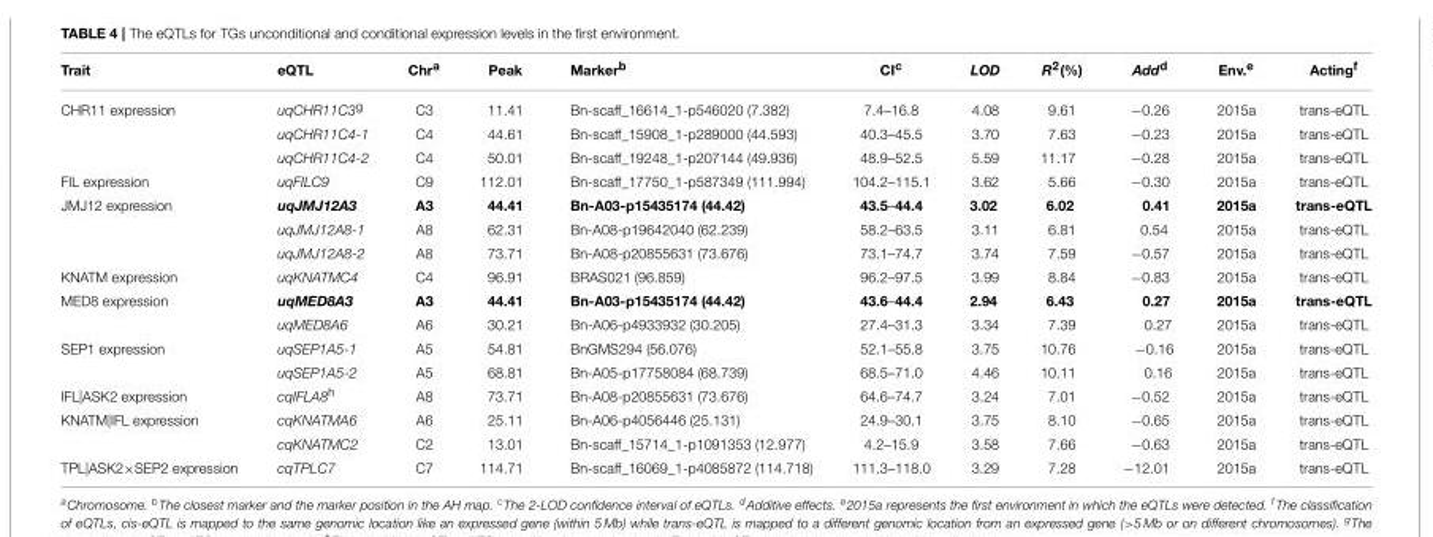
<table><thead><tr><td>Trait</td><td>eQTL</td><td>Chr<sup>a</sup></td><td>Peak</td><td>Marker<sup>b</sup></td><td>CI<sup>c</sup></td><td>LOD</td><td>R<sup>2</sup>(%)</td><td>Add<sup>d</sup></td><td>Env.<sup>e</sup></td><td>Acting<sup>f</sup></td></tr></thead><tbody><tr><td rowspan="3">CHR11 expression</td><td>uqCHR11C3<sup>g</sup></td><td>C3</td><td>11.41</td><td>Bn-scaff_16614_1-p546020 (7.382)</td><td>7.4–16.8</td><td>4.08</td><td>9.61</td><td>−0.26</td><td>2015a</td><td>trans-eQTL</td></tr><tr><td>uqCHR11C4-1</td><td>C4</td><td>44.61</td><td>Bn-scaff_15908_1-p289000 (44.593)</td><td>40.3–45.5</td><td>3.70</td><td>7.63</td><td>−0.23</td><td>2015a</td><td>trans-eQTL</td></tr><tr><td>uqCHR11C4-2</td><td>C4</td><td>50.01</td><td>Bn-scaff_19248_1-p207144 (49.936)</td><td>48.9–52.5</td><td>5.59</td><td>11.17</td><td>−0.28</td><td>2015a</td><td>trans-eQTL</td></tr><tr><td>FIL expression</td><td>uqFILC9</td><td>C9</td><td>112.01</td><td>Bn-scaff_17750_1-p587349 (111.994)</td><td>104.2–115.1</td><td>3.62</td><td>5.66</td><td>−0.30</td><td>2015a</td><td>trans-eQTL</td></tr><tr><td rowspan="3">JMJ12 expression</td><td>uqJMJ12A3</td><td>A3</td><td>44.41</td><td>Bn-A03-p15435174 (44.42)</td><td>43.5–44.4</td><td>3.02</td><td>6.02</td><td>0.41</td><td>2015a</td><td>trans-eQTL</td></tr><tr><td>uqJMJ12A8-1</td><td>A8</td><td>62.31</td><td>Bn-A08-p19642040 (62.239)</td><td>58.2–63.5</td><td>3.11</td><td>6.81</td><td>0.54</td><td>2015a</td><td>trans-eQTL</td></tr><tr><td>uqJMJ12A8-2</td><td>A8</td><td>73.71</td><td>Bn-A08-p20855631 (73.676)</td><td>73.1–74.7</td><td>3.74</td><td>7.59</td><td>−0.57</td><td>2015a</td><td>trans-eQTL</td></tr><tr><td>KNATM expression</td><td>uqKNATMC4</td><td>C4</td><td>96.91</td><td>BRAS021 (96.859)</td><td>96.2–97.5</td><td>3.99</td><td>8.84</td><td>−0.83</td><td>2015a</td><td>trans-eQTL</td></tr><tr><td rowspan="2">MED8 expression</td><td>uqMED8A3</td><td>A3</td><td>44.41</td><td>Bn-A03-p15435174 (44.42)</td><td>43.6–44.4</td><td>2.94</td><td>6.43</td><td>0.27</td><td>2015a</td><td>trans-eQTL</td></tr><tr><td>uqMED8A6</td><td>A6</td><td>30.21</td><td>Bn-A06-p4933932 (30.205)</td><td>27.4–31.3</td><td>3.34</td><td>7.39</td><td>0.27</td><td>2015a</td><td>trans-eQTL</td></tr><tr><td rowspan="2">SEP1 expression</td><td>uqSEP1A5-1</td><td>A5</td><td>54.81</td><td>BnGMS294 (56.076)</td><td>52.1–55.8</td><td>3.75</td><td>10.76</td><td>−0.16</td><td>2015a</td><td>trans-eQTL</td></tr><tr><td>uqSEP1A5-2</td><td>A5</td><td>68.81</td><td>Bn-A05-p17758084 (68.739)</td><td>68.5–71.0</td><td>4.46</td><td>10.11</td><td>0.16</td><td>2015a</td><td>trans-eQTL</td></tr><tr><td>IFL|ASK2 expression</td><td>cqIFLA8<sup>h</sup></td><td>A8</td><td>73.71</td><td>Bn-A08-p20855631 (73.676)</td><td>64.6–74.7</td><td>3.24</td><td>7.01</td><td>−0.52</td><td>2015a</td><td>trans-eQTL</td></tr><tr><td rowspan="2">KNATM|IFL expression</td><td>cqKNATMA6</td><td>A6</td><td>25.11</td><td>Bn-A06-p4056446 (25.131)</td><td>24.9–30.1</td><td>3.75</td><td>8.10</td><td>−0.65</td><td>2015a</td><td>trans-eQTL</td></tr><tr><td>cqKNATMC2</td><td>C2</td><td>13.01</td><td>Bn-scaff_15714_1-p1091353 (12.977)</td><td>4.2–15.9</td><td>3.58</td><td>7.66</td><td>−0.63</td><td>2015a</td><td>trans-eQTL</td></tr><tr><td>TPL|ASK2×SEP2 expression</td><td>cqTPLC7</td><td>C7</td><td>114.71</td><td>Bn-scaff_16069_1-p4085872 (114.718)</td><td>111.3–118.0</td><td>3.29</td><td>7.28</td><td>−12.01</td><td>2015a</td><td>trans-eQTL</td></tr></tbody></table>